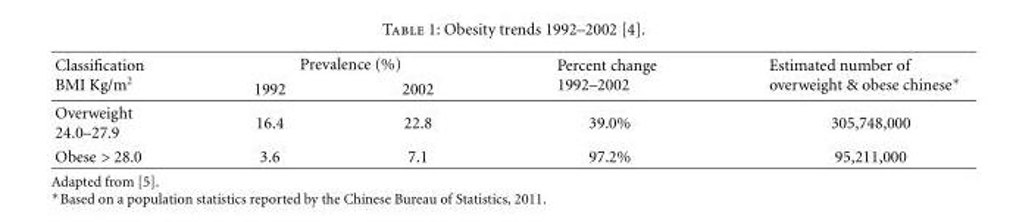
<table><thead><tr><td rowspan="2">Classification BMI Kg/m<sup>2</sup></td><td colspan="2">Prevalence (%)</td><td rowspan="2">Percent change 1992–2002</td><td rowspan="2">Estimated number of overweight &amp; obese chinese∗</td></tr><tr><td>1992</td><td>2002</td></tr></thead><tbody><tr><td>Overweight 24.0–27.9</td><td>16.4</td><td>22.8</td><td>39.0%</td><td>305,748,000</td></tr><tr><td>Obese &gt; 28.0</td><td>3.6</td><td>7.1</td><td>97.2%</td><td>95,211,000</td></tr></tbody></table>